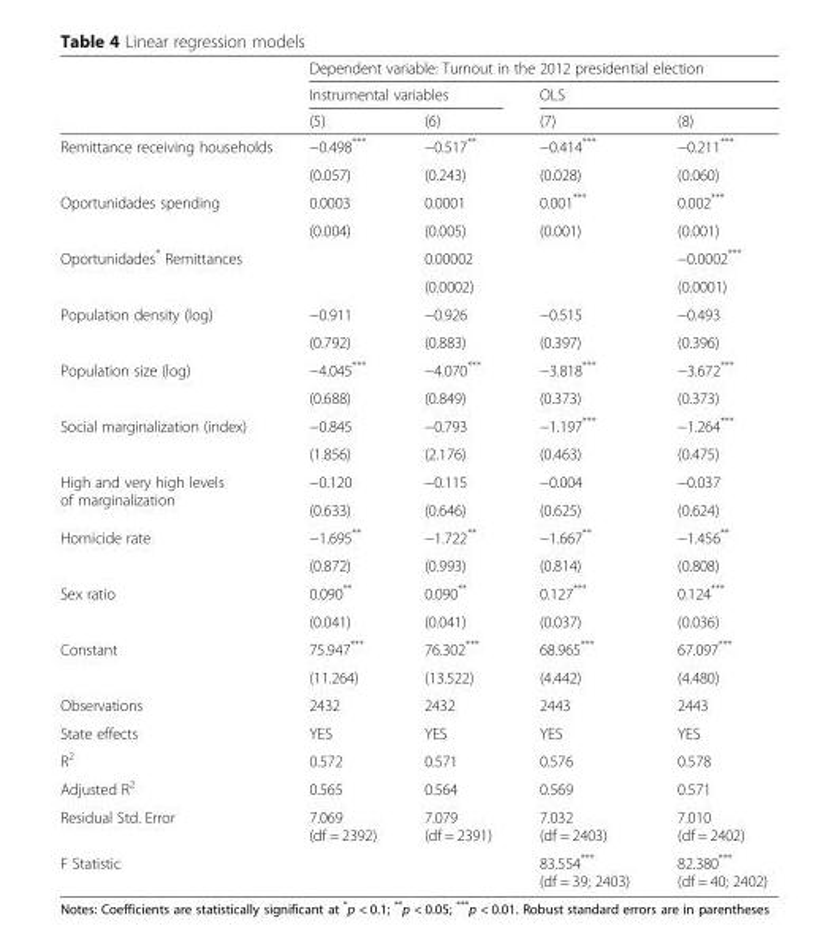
<table><thead><tr><td rowspan="3"></td><td colspan="4">Dependent variable: Turnout in the 2012 presidential election</td></tr><tr><td colspan="2">Instrumental variables</td><td colspan="2">OLS</td></tr><tr><td>(5)</td><td>(6)</td><td>(7)</td><td>(8)</td></tr></thead><tbody><tr><td rowspan="2">Remittance receiving households</td><td>−0.498***</td><td>−0.517**</td><td>−0.414***</td><td>−0.211***</td></tr><tr><td>(0.057)</td><td>(0.243)</td><td>(0.028)</td><td>(0.060)</td></tr><tr><td rowspan="2">Oportunidades spending</td><td>0.0003</td><td>0.0001</td><td>0.001***</td><td>0.002***</td></tr><tr><td>(0.004)</td><td>(0.005)</td><td>(0.001)</td><td>(0.001)</td></tr><tr><td rowspan="2">Oportunidades* Remittances</td><td></td><td>0.00002</td><td></td><td>−0.0002***</td></tr><tr><td></td><td>(0.0002)</td><td></td><td>(0.0001)</td></tr><tr><td rowspan="2">Population density (log)</td><td>−0.911</td><td>−0.926</td><td>−0.515</td><td>−0.493</td></tr><tr><td>(0.792)</td><td>(0.883)</td><td>(0.397)</td><td>(0.396)</td></tr><tr><td rowspan="2">Population size (log)</td><td>−4.045***</td><td>−4.070***</td><td>−3.818***</td><td>−3.672***</td></tr><tr><td>(0.688)</td><td>(0.849)</td><td>(0.373)</td><td>(0.373)</td></tr><tr><td rowspan="2">Social marginalization (index)</td><td>−0.845</td><td>−0.793</td><td>−1.197***</td><td>−1.264***</td></tr><tr><td>(1.856)</td><td>(2.176)</td><td>(0.463)</td><td>(0.475)</td></tr><tr><td rowspan="2">High and very high levels of marginalization</td><td>−0.120</td><td>−0.115</td><td>−0.004</td><td>−0.037</td></tr><tr><td>(0.633)</td><td>(0.646)</td><td>(0.625)</td><td>(0.624)</td></tr><tr><td rowspan="2">Homicide rate</td><td>−1.695**</td><td>−1.722**</td><td>−1.667**</td><td>−1.456**</td></tr><tr><td>(0.872)</td><td>(0.993)</td><td>(0.814)</td><td>(0.808)</td></tr><tr><td rowspan="2">Sex ratio</td><td>0.090**</td><td>0.090**</td><td>0.127***</td><td>0.124***</td></tr><tr><td>(0.041)</td><td>(0.041)</td><td>(0.037)</td><td>(0.036)</td></tr><tr><td rowspan="2">Constant</td><td>75.947***</td><td>76.302***</td><td>68.965***</td><td>67.097***</td></tr><tr><td>(11.264)</td><td>(13.522)</td><td>(4.442)</td><td>(4.480)</td></tr><tr><td>Observations</td><td>2432</td><td>2432</td><td>2443</td><td>2443</td></tr><tr><td>State effects</td><td>YES</td><td>YES</td><td>YES</td><td>YES</td></tr><tr><td>R<sup>2</sup></td><td>0.572</td><td>0.571</td><td>0.576</td><td>0.578</td></tr><tr><td>Adjusted R<sup>2</sup></td><td>0.565</td><td>0.564</td><td>0.569</td><td>0.571</td></tr><tr><td>Residual Std. Error</td><td>7.069 (df = 2392)</td><td>7.079 (df = 2391)</td><td>7.032 (df = 2403)</td><td>7.010 (df = 2402)</td></tr><tr><td>F Statistic</td><td></td><td></td><td>83.554*** (df = 39; 2403)</td><td>82.380*** (df = 40; 2402)</td></tr></tbody></table>